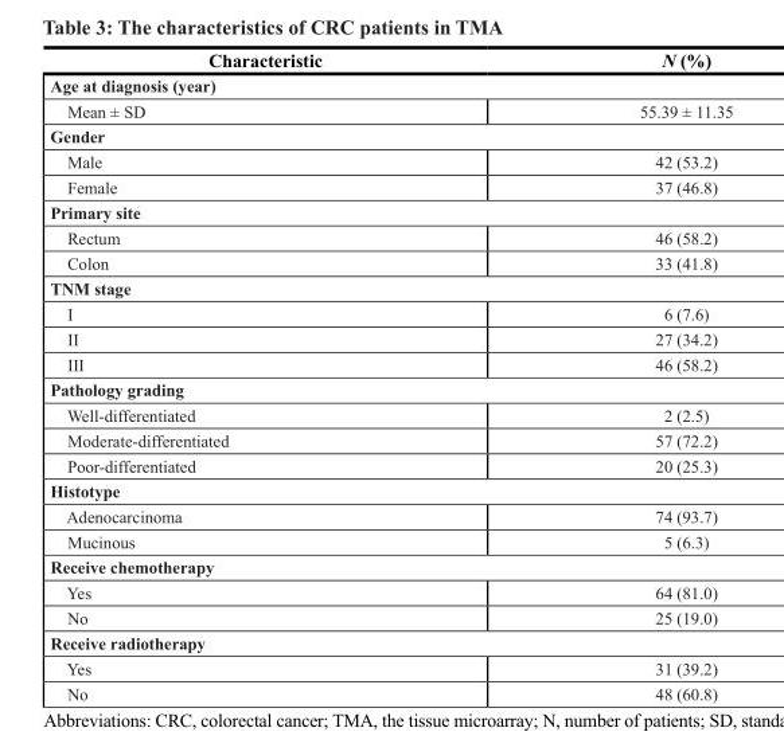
<table><thead><tr><td>Characteristic</td><td>N (%)</td></tr></thead><tbody><tr><td colspan="2">Age at diagnosis (year)</td></tr><tr><td>Mean ± SD</td><td>55.39 ± 11.35</td></tr><tr><td colspan="2">Gender</td></tr><tr><td>Male</td><td>42 (53.2)</td></tr><tr><td>Female</td><td>37 (46.8)</td></tr><tr><td colspan="2">Primary site</td></tr><tr><td>Rectum</td><td>46 (58.2)</td></tr><tr><td>Colon</td><td>33 (41.8)</td></tr><tr><td colspan="2">TNM stage</td></tr><tr><td>I</td><td>6 (7.6)</td></tr><tr><td>II</td><td>27 (34.2)</td></tr><tr><td>III</td><td>46 (58.2)</td></tr><tr><td colspan="2">Pathology grading</td></tr><tr><td>Well-differentiated</td><td>2 (2.5)</td></tr><tr><td>Moderate-differentiated</td><td>57 (72.2)</td></tr><tr><td>Poor-differentiated</td><td>20 (25.3)</td></tr><tr><td colspan="2">Histotype</td></tr><tr><td>Adenocarcinoma</td><td>74 (93.7)</td></tr><tr><td>Mucinous</td><td>5 (6.3)</td></tr><tr><td colspan="2">Receive chemotherapy</td></tr><tr><td>Yes</td><td>64 (81.0)</td></tr><tr><td>No</td><td>25 (19.0)</td></tr><tr><td colspan="2">Receive radiotherapy</td></tr><tr><td>Yes</td><td>31 (39.2)</td></tr><tr><td>No</td><td>48 (60.8)</td></tr></tbody></table>